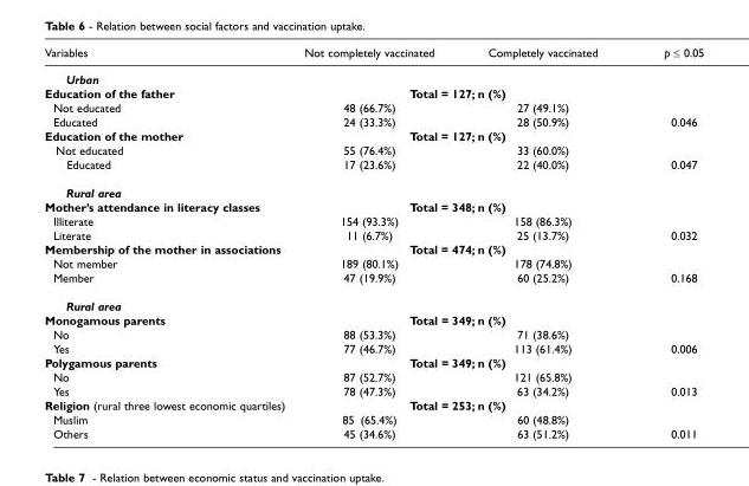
<table><thead><tr><td>Variables</td><td>Not completely vaccinated</td><td>Completely vaccinated</td><td>p ≤ 0.05</td></tr></thead><tbody><tr><td colspan="4">Urban</td></tr><tr><td>Education of the father</td><td colspan="2">Total = 127; n (%)</td><td></td></tr><tr><td>Not educated</td><td>48 (66.7%)</td><td>27 (49.1%)</td><td></td></tr><tr><td>Educated</td><td>24 (33.3%)</td><td>28 (50.9%)</td><td>0.046</td></tr><tr><td>Education of the mother</td><td colspan="2">Total = 127; n (%)</td><td></td></tr><tr><td>Not educated</td><td>55 (76.4%)</td><td>33 (60.0%)</td><td></td></tr><tr><td>Educated</td><td>17 (23.6%)</td><td>22 (40.0%)</td><td>0.047</td></tr><tr><td colspan="4">Rural area</td></tr><tr><td>Mother’s attendance in literacy classes</td><td colspan="2">Total = 348; n (%)</td><td></td></tr><tr><td>Illiterate</td><td>154 (93.3%)</td><td>158 (86.3%)</td><td></td></tr><tr><td>Literate</td><td>11 (6.7%)</td><td>25 (13.7%)</td><td>0.032</td></tr><tr><td>Membership of the mother in associations</td><td colspan="2">Total = 474; n (%)</td><td></td></tr><tr><td>Not member</td><td>189 (80.1%)</td><td>178 (74.8%)</td><td></td></tr><tr><td>Member</td><td>47 (19.9%)</td><td>60 (25.2%)</td><td>0.168</td></tr><tr><td colspan="4">Rural area</td></tr><tr><td>Monogamous parents</td><td colspan="2">Total = 349; n (%)</td><td></td></tr><tr><td>No</td><td>88 (53.3%)</td><td>71 (38.6%)</td><td></td></tr><tr><td>Yes</td><td>77 (46.7%)</td><td>113 (61.4%)</td><td>0.006</td></tr><tr><td>Polygamous parents</td><td colspan="2">Total = 349; n (%)</td><td></td></tr><tr><td>No</td><td>87 (52.7%)</td><td>121 (65.8%)</td><td></td></tr><tr><td>Yes</td><td>78 (47.3%)</td><td>63 (34.2%)</td><td>0.013</td></tr><tr><td>Religion (rural three lowest economic quartiles)</td><td colspan="2">Total = 253; n (%)</td><td></td></tr><tr><td>Muslim</td><td>85 (65.4%)</td><td>60 (48.8%)</td><td></td></tr><tr><td>Others</td><td>45 (34.6%)</td><td>63 (51.2%)</td><td>0.011</td></tr></tbody></table>